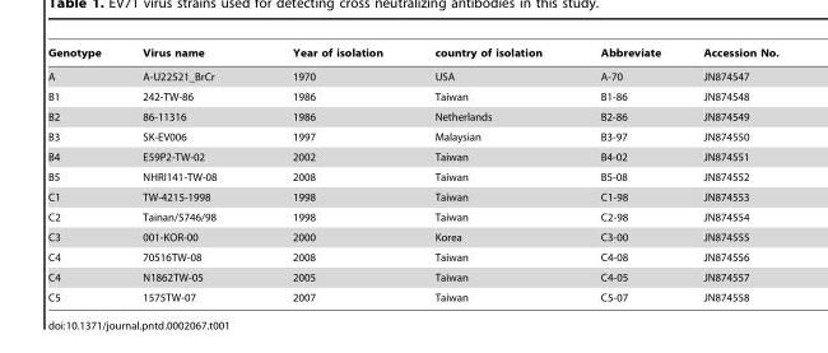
<table><thead><tr><td>Genotype</td><td>Virus name</td><td>Year of isolation</td><td>country of isolation</td><td>Abbreviate</td><td>Accession No.</td></tr></thead><tbody><tr><td>A</td><td>A-U22521_BrCr</td><td>1970</td><td>USA</td><td>A-70</td><td>JN874547</td></tr><tr><td>B1</td><td>242-TW-86</td><td>1986</td><td>Taiwan</td><td>B1-86</td><td>JN874548</td></tr><tr><td>B2</td><td>86-11316</td><td>1986</td><td>Netherlands</td><td>B2-86</td><td>JN874549</td></tr><tr><td>B3</td><td>SK-EV006</td><td>1997</td><td>Malaysian</td><td>B3-97</td><td>JN874550</td></tr><tr><td>B4</td><td>E59P2-TW-02</td><td>2002</td><td>Taiwan</td><td>B4-02</td><td>JN874551</td></tr><tr><td>B5</td><td>NHRI141-TW-08</td><td>2008</td><td>Taiwan</td><td>B5-08</td><td>JN874552</td></tr><tr><td>C1</td><td>TW-4215-1998</td><td>1998</td><td>Taiwan</td><td>C1-98</td><td>JN874553</td></tr><tr><td>C2</td><td>Tainan/5746/98</td><td>1998</td><td>Taiwan</td><td>C2-98</td><td>JN874554</td></tr><tr><td>C3</td><td>001-KOR-00</td><td>2000</td><td>Korea</td><td>C3-00</td><td>JN874555</td></tr><tr><td>C4</td><td>70516TW-08</td><td>2008</td><td>Taiwan</td><td>C4-08</td><td>JN874556</td></tr><tr><td>C4</td><td>N1862TW-05</td><td>2005</td><td>Taiwan</td><td>C4-05</td><td>JN874557</td></tr><tr><td>C5</td><td>1575TW-07</td><td>2007</td><td>Taiwan</td><td>C5-07</td><td>JN874558</td></tr></tbody></table>